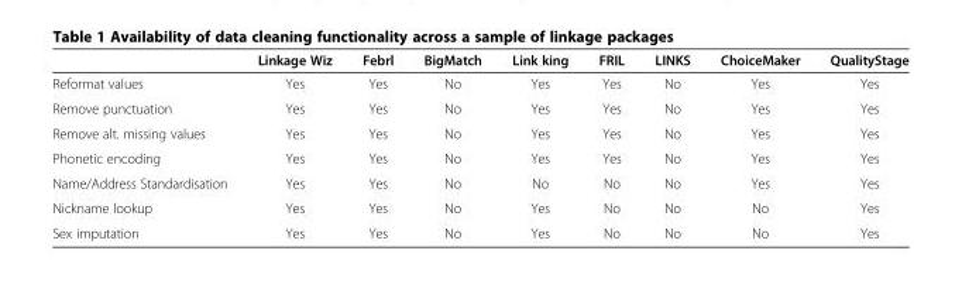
<table><thead><tr><td></td><td>Linkage Wiz</td><td>Febrl</td><td>BigMatch</td><td>Link king</td><td>FRIL</td><td>LINKS</td><td>ChoiceMaker</td><td>QualityStage</td></tr></thead><tbody><tr><td>Reformat values</td><td>Yes</td><td>Yes</td><td>No</td><td>Yes</td><td>Yes</td><td>No</td><td>Yes</td><td>Yes</td></tr><tr><td>Remove punctuation</td><td>Yes</td><td>Yes</td><td>No</td><td>Yes</td><td>Yes</td><td>No</td><td>Yes</td><td>Yes</td></tr><tr><td>Remove alt. missing values</td><td>Yes</td><td>Yes</td><td>No</td><td>Yes</td><td>Yes</td><td>No</td><td>Yes</td><td>Yes</td></tr><tr><td>Phonetic encoding</td><td>Yes</td><td>Yes</td><td>No</td><td>Yes</td><td>Yes</td><td>No</td><td>Yes</td><td>Yes</td></tr><tr><td>Name/Address Standardisation</td><td>Yes</td><td>Yes</td><td>No</td><td>No</td><td>No</td><td>No</td><td>Yes</td><td>Yes</td></tr><tr><td>Nickname lookup</td><td>Yes</td><td>Yes</td><td>No</td><td>Yes</td><td>No</td><td>No</td><td>No</td><td>Yes</td></tr><tr><td>Sex imputation</td><td>Yes</td><td>Yes</td><td>No</td><td>Yes</td><td>No</td><td>No</td><td>No</td><td>Yes</td></tr></tbody></table>